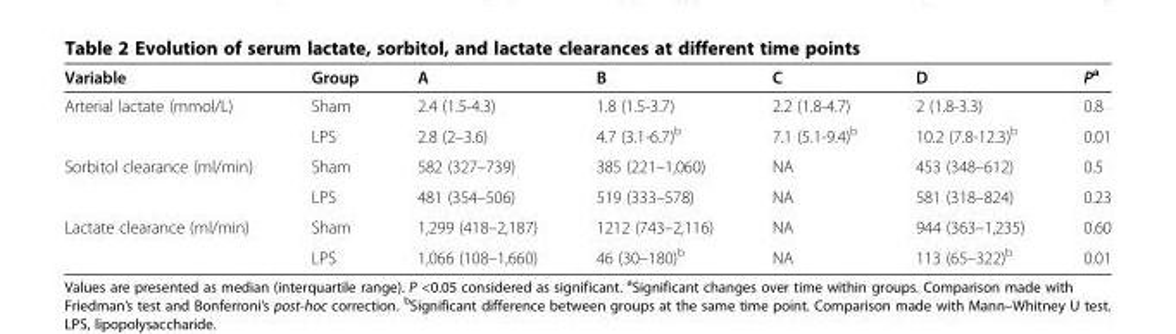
<table><thead><tr><td>Variable</td><td>Group</td><td>A</td><td>B</td><td>C</td><td>D</td><td>P<sup>a</sup></td></tr></thead><tbody><tr><td rowspan="2">Arterial lactate (mmol/L)</td><td>Sham</td><td>2.4 (1.5-4.3)</td><td>1.8 (1.5-3.7)</td><td>2.2 (1.8-4.7)</td><td>2 (1.8-3.3)</td><td>0.8</td></tr><tr><td>LPS</td><td>2.8 (2–3.6)</td><td>4.7 (3.1-6.7)<sup>b</sup></td><td>7.1 (5.1-9.4)<sup>b</sup></td><td>10.2 (7.8-12.3)<sup>b</sup></td><td>0.01</td></tr><tr><td rowspan="2">Sorbitol clearance (ml/min)</td><td>Sham</td><td>582 (327–739)</td><td>385 (221–1,060)</td><td>NA</td><td>453 (348–612)</td><td>0.5</td></tr><tr><td>LPS</td><td>481 (354–506)</td><td>519 (333–578)</td><td>NA</td><td>581 (318–824)</td><td>0.23</td></tr><tr><td rowspan="2">Lactate clearance (ml/min)</td><td>Sham</td><td>1,299 (418–2,187)</td><td>1212 (743–2,116)</td><td>NA</td><td>944 (363–1,235)</td><td>0.60</td></tr><tr><td>LPS</td><td>1,066 (108–1,660)</td><td>46 (30–180)<sup>b</sup></td><td>NA</td><td>113 (65–322)<sup>b</sup></td><td>0.01</td></tr></tbody></table>